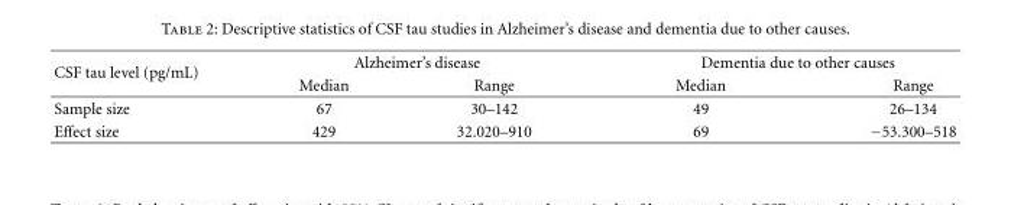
<table><thead><tr><td rowspan="2">CSF tau level (pg/mL)</td><td colspan="2">Alzheimer’s disease</td><td colspan="2">Dementia due to other causes</td></tr><tr><td>Median</td><td>Range</td><td>Median</td><td>Range</td></tr></thead><tbody><tr><td>Sample size</td><td>67</td><td>30–142</td><td>49</td><td>26–134</td></tr><tr><td>Effect size</td><td>429</td><td>32.020–910</td><td>69</td><td>−53.300–518</td></tr></tbody></table>